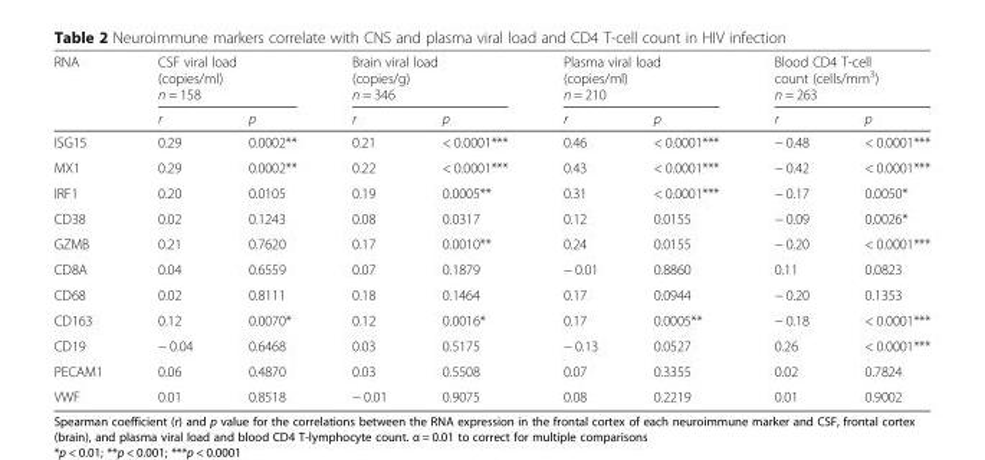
<table><thead><tr><td rowspan="2">RNA</td><td colspan="2">CSF viral load (copies/ml) n = 158</td><td colspan="2">Brain viral load (copies/g) n = 346</td><td colspan="2">Plasma viral load (copies/ml) n = 210</td><td colspan="2">Blood CD4 T-cell count (cells/mm<sup>3</sup>) n = 263</td></tr><tr><td>r</td><td>p</td><td>r</td><td>p</td><td>r</td><td>p</td><td>r</td><td>p</td></tr></thead><tbody><tr><td>ISG15</td><td>0.29</td><td>0.0002**</td><td>0.21</td><td>&lt; 0.0001***</td><td>0.46</td><td>&lt; 0.0001***</td><td>− 0.48</td><td>&lt; 0.0001***</td></tr><tr><td>MX1</td><td>0.29</td><td>0.0002**</td><td>0.22</td><td>&lt; 0.0001***</td><td>0.43</td><td>&lt; 0.0001***</td><td>− 0.42</td><td>&lt; 0.0001***</td></tr><tr><td>IRF1</td><td>0.20</td><td>0.0105</td><td>0.19</td><td>0.0005**</td><td>0.31</td><td>&lt; 0.0001***</td><td>− 0.17</td><td>0.0050*</td></tr><tr><td>CD38</td><td>0.02</td><td>0.1243</td><td>0.08</td><td>0.0317</td><td>0.12</td><td>0.0155</td><td>− 0.09</td><td>0.0026*</td></tr><tr><td>GZMB</td><td>0.21</td><td>0.7620</td><td>0.17</td><td>0.0010**</td><td>0.24</td><td>0.0155</td><td>− 0.20</td><td>&lt; 0.0001***</td></tr><tr><td>CD8A</td><td>0.04</td><td>0.6559</td><td>0.07</td><td>0.1879</td><td>− 0.01</td><td>0.8860</td><td>0.11</td><td>0.0823</td></tr><tr><td>CD68</td><td>0.02</td><td>0.8111</td><td>0.18</td><td>0.1464</td><td>0.17</td><td>0.0944</td><td>− 0.20</td><td>0.1353</td></tr><tr><td>CD163</td><td>0.12</td><td>0.0070*</td><td>0.12</td><td>0.0016*</td><td>0.17</td><td>0.0005**</td><td>− 0.18</td><td>&lt; 0.0001***</td></tr><tr><td>CD19</td><td>− 0.04</td><td>0.6468</td><td>0.03</td><td>0.5175</td><td>− 0.13</td><td>0.0527</td><td>0.26</td><td>&lt; 0.0001***</td></tr><tr><td>PECAM1</td><td>0.06</td><td>0.4870</td><td>0.03</td><td>0.5508</td><td>0.07</td><td>0.3355</td><td>0.02</td><td>0.7824</td></tr><tr><td>VWF</td><td>0.01</td><td>0.8518</td><td>− 0.01</td><td>0.9075</td><td>0.08</td><td>0.2219</td><td>0.01</td><td>0.9002</td></tr></tbody></table>